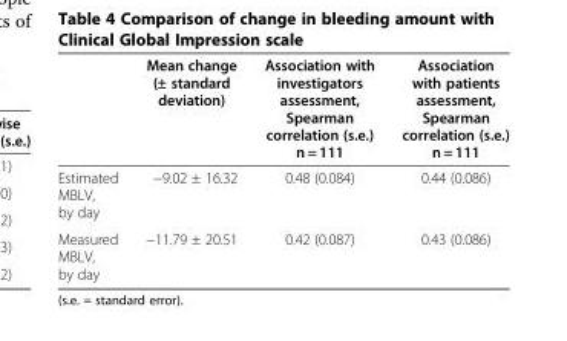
<table><thead><tr><td></td><td>Mean change (± standard deviation)</td><td>Association with investigators assessment, Spearman correlation (s.e.) n = 111</td><td>Association with patients assessment, Spearman correlation (s.e.) n = 111</td></tr></thead><tbody><tr><td>Estimated MBLV, by day</td><td>−9.02 ± 16.32</td><td>0.48 (0.084)</td><td>0.44 (0.086)</td></tr><tr><td>Measured MBLV, by day</td><td>−11.79 ± 20.51</td><td>0.42 (0.087)</td><td>0.43 (0.086)</td></tr></tbody></table>